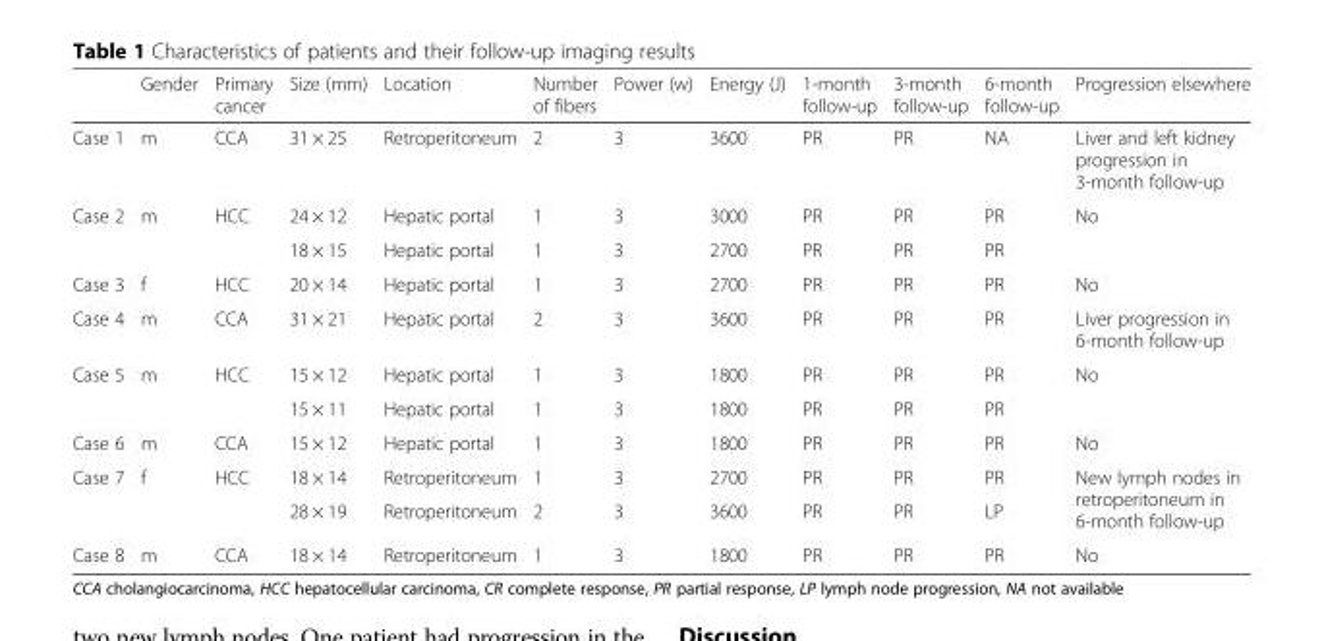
<table><thead><tr><td></td><td>Gender</td><td>Primary cancer</td><td>Size (mm)</td><td>Location</td><td>Number of fibers</td><td>Power (w)</td><td>Energy (J)</td><td>1-month follow-up</td><td>3-month follow-up</td><td>6-month follow-up</td><td>Progression elsewhere</td></tr></thead><tbody><tr><td>Case 1</td><td>m</td><td>CCA</td><td>31 × 25</td><td>Retroperitoneum</td><td>2</td><td>3</td><td>3600</td><td>PR</td><td>PR</td><td>NA</td><td>Liver and left kidney progression in 3-month follow-up</td></tr><tr><td rowspan="2">Case 2</td><td>m</td><td>HCC</td><td>24 × 12</td><td>Hepatic portal</td><td>1</td><td>3</td><td>3000</td><td>PR</td><td>PR</td><td>PR</td><td rowspan="2">No</td></tr><tr><td></td><td></td><td>18 × 15</td><td>Hepatic portal</td><td>1</td><td>3</td><td>2700</td><td>PR</td><td>PR</td><td>PR</td></tr><tr><td>Case 3</td><td>f</td><td>HCC</td><td>20 × 14</td><td>Hepatic portal</td><td>1</td><td>3</td><td>2700</td><td>PR</td><td>PR</td><td>PR</td><td>No</td></tr><tr><td>Case 4</td><td>m</td><td>CCA</td><td>31 × 21</td><td>Hepatic portal</td><td>2</td><td>3</td><td>3600</td><td>PR</td><td>PR</td><td>PR</td><td>Liver progression in 6-month follow-up</td></tr><tr><td rowspan="2">Case 5</td><td>m</td><td>HCC</td><td>15 × 12</td><td>Hepatic portal</td><td>1</td><td>3</td><td>1800</td><td>PR</td><td>PR</td><td>PR</td><td rowspan="2">No</td></tr><tr><td></td><td></td><td>15 × 11</td><td>Hepatic portal</td><td>1</td><td>3</td><td>1800</td><td>PR</td><td>PR</td><td>PR</td></tr><tr><td>Case 6</td><td>m</td><td>CCA</td><td>15 × 12</td><td>Hepatic portal</td><td>1</td><td>3</td><td>1800</td><td>PR</td><td>PR</td><td>PR</td><td>No</td></tr><tr><td rowspan="2">Case 7</td><td>f</td><td>HCC</td><td>18 × 14</td><td>Retroperitoneum</td><td>1</td><td>3</td><td>2700</td><td>PR</td><td>PR</td><td>PR</td><td rowspan="2">New lymph nodes in retroperitoneum in 6-month follow-up</td></tr><tr><td></td><td></td><td>28 × 19</td><td>Retroperitoneum</td><td>2</td><td>3</td><td>3600</td><td>PR</td><td>PR</td><td>LP</td></tr><tr><td>Case 8</td><td>m</td><td>CCA</td><td>18 × 14</td><td>Retroperitoneum</td><td>1</td><td>3</td><td>1800</td><td>PR</td><td>PR</td><td>PR</td><td>No</td></tr></tbody></table>